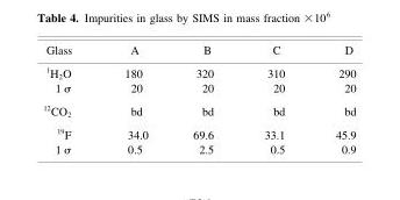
<table><thead><tr><td>Glass</td><td>A</td><td>B</td><td>C</td><td>D</td></tr></thead><tbody><tr><td><sup>1</sup>H<sub>2</sub>O</td><td>180</td><td>320</td><td>310</td><td>290</td></tr><tr><td>1 σ</td><td>20</td><td>20</td><td>20</td><td>20</td></tr><tr><td><sup>12</sup>CO<sub>2</sub></td><td>bd</td><td>bd</td><td>bd</td><td>bd</td></tr><tr><td><sup>19</sup>F</td><td>34.0</td><td>69.6</td><td>33.1</td><td>45.9</td></tr><tr><td>1 σ</td><td>0.5</td><td>2.5</td><td>0.5</td><td>0.9</td></tr></tbody></table>